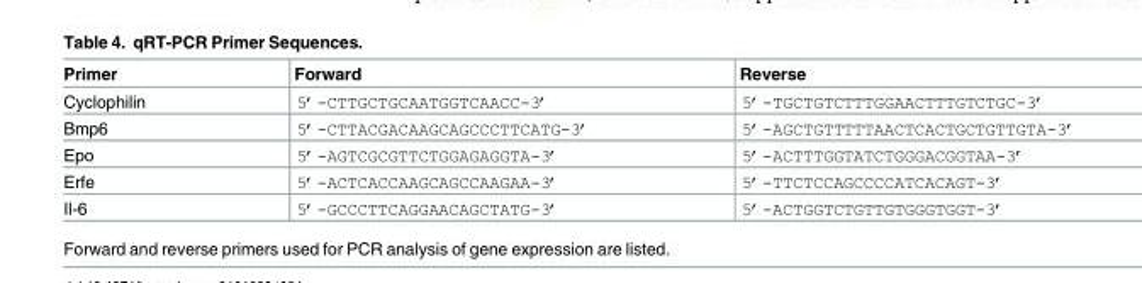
<table><thead><tr><td>Primer</td><td>Forward</td><td>Reverse</td></tr></thead><tbody><tr><td>Cyclophilin</td><td>5’-CTTGCTGCAATGGTCAACC-3’</td><td>5’-TGCTGTCTTTGGAACTTTGTCTGC-3’</td></tr><tr><td>Bmp6</td><td>5’-CTTACGACAAGCAGCCCTTCATG-3’</td><td>5’-AGCTGTTTTTAACTCACTGCTGTTGTA-3’</td></tr><tr><td>Epo</td><td>5’-AGTCGCGTTCTGGAGAGGTA-3’</td><td>5’-ACTTTGGTATCTGGGACGGTAA-3’</td></tr><tr><td>Erfe</td><td>5’-ACTCACCAAGCAGCCAAGAA-3’</td><td>5’-TTCTCCAGCCCCATCACAGT-3’</td></tr><tr><td>Il-6</td><td>5’-GCCCTTCAGGAACAGCTATG-3’</td><td>5’-ACTGGTCTGTTGTGGGTGGT-3’</td></tr></tbody></table>